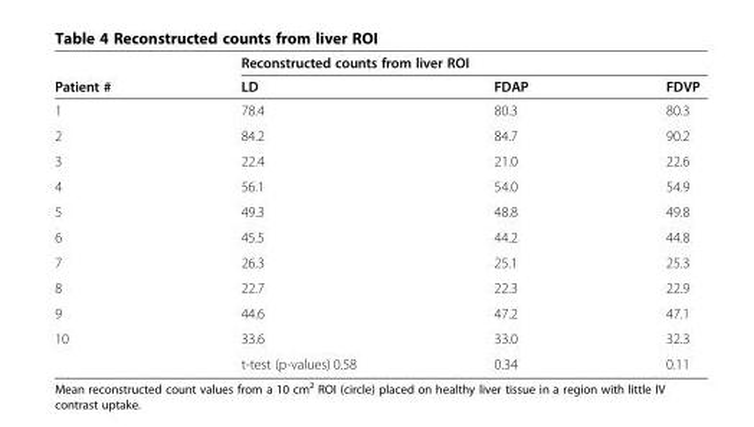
<table><thead><tr><td rowspan="2">Patient #</td><td colspan="3">Reconstructed counts from liver ROI</td></tr><tr><td>LD</td><td>FDAP</td><td>FDVP</td></tr></thead><tbody><tr><td>1</td><td>78.4</td><td>80.3</td><td>80.3</td></tr><tr><td>2</td><td>84.2</td><td>84.7</td><td>90.2</td></tr><tr><td>3</td><td>22.4</td><td>21.0</td><td>22.6</td></tr><tr><td>4</td><td>56.1</td><td>54.0</td><td>54.9</td></tr><tr><td>5</td><td>49.3</td><td>48.8</td><td>49.8</td></tr><tr><td>6</td><td>45.5</td><td>44.2</td><td>44.8</td></tr><tr><td>7</td><td>26.3</td><td>25.1</td><td>25.3</td></tr><tr><td>8</td><td>22.7</td><td>22.3</td><td>22.9</td></tr><tr><td>9</td><td>44.6</td><td>47.2</td><td>47.1</td></tr><tr><td rowspan="2">10</td><td>33.6</td><td>33.0</td><td>32.3</td></tr><tr><td>t-test (p-values) 0.58</td><td>0.34</td><td>0.11</td></tr></tbody></table>